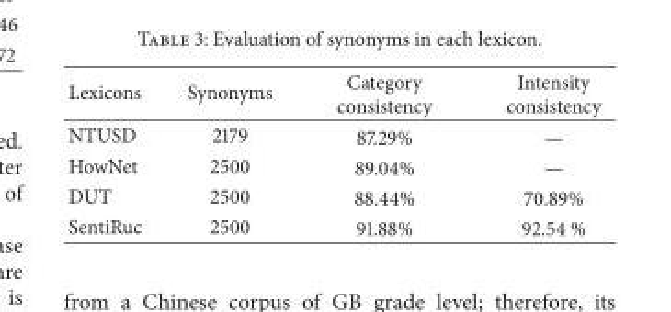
<table><thead><tr><td>Lexicons</td><td>Synonyms</td><td>Category consistency</td><td>Intensity consistency</td></tr></thead><tbody><tr><td>NTUSD</td><td>2179</td><td>87.29%</td><td>—</td></tr><tr><td>HowNet</td><td>2500</td><td>89.04%</td><td>—</td></tr><tr><td>DUT</td><td>2500</td><td>88.44%</td><td>70.89%</td></tr><tr><td>SentiRuc</td><td>2500</td><td>91.88%</td><td>92.54 %</td></tr></tbody></table>